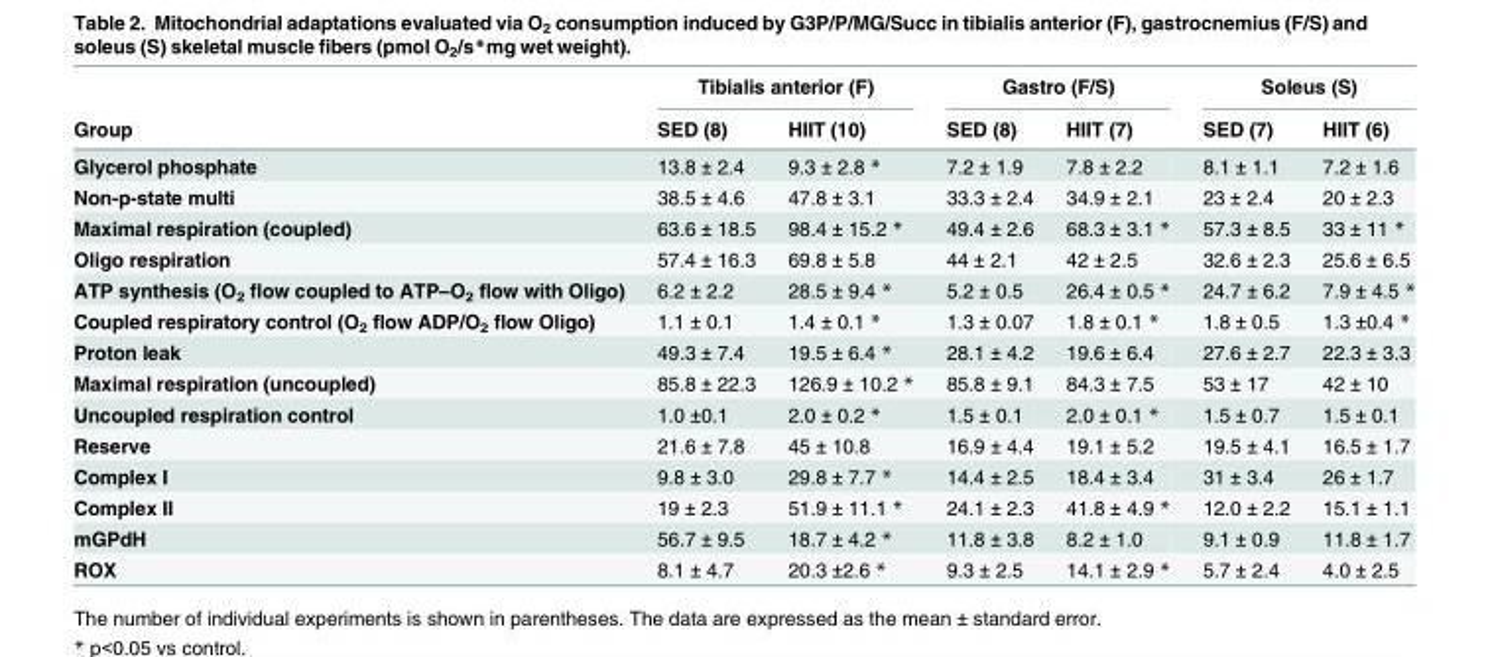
<table><thead><tr><td rowspan="2">Group</td><td colspan="2">Tibialis anterior (F)</td><td colspan="2">Gastro (F/S)</td><td colspan="2">Soleus (S)</td></tr><tr><td>SED (8)</td><td>HIIT (10)</td><td>SED (8)</td><td>HIIT (7)</td><td>SED (7)</td><td>HIIT (6)</td></tr></thead><tbody><tr><td>Glycerol phosphate</td><td>13.8 ± 2.4</td><td>9.3 ± 2.8 *</td><td>7.2 ± 1.9</td><td>7.8 ± 2.2</td><td>8.1 ± 1.1</td><td>7.2 ± 1.6</td></tr><tr><td>Non-p-state multi</td><td>38.5 ± 4.6</td><td>47.8 ± 3.1</td><td>33.3 ± 2.4</td><td>34.9 ± 2.1</td><td>23 ± 2.4</td><td>20 ± 2.3</td></tr><tr><td>Maximal respiration (coupled)</td><td>63.6 ± 18.5</td><td>98.4 ± 15.2 *</td><td>49.4 ± 2.6</td><td>68.3 ± 3.1 *</td><td>57.3 ± 8.5</td><td>33 ± 11 *</td></tr><tr><td>Oligo respiration</td><td>57.4 ± 16.3</td><td>69.8 ± 5.8</td><td>44 ± 2.1</td><td>42 ± 2.5</td><td>32.6 ± 2.3</td><td>25.6 ± 6.5</td></tr><tr><td>ATP synthesis (O<sub>2</sub> flow coupled to ATP–O<sub>2</sub> flow with Oligo)</td><td>6.2 ± 2.2</td><td>28.5 ± 9.4 *</td><td>5.2 ± 0.5</td><td>26.4 ± 0.5 *</td><td>24.7 ± 6.2</td><td>7.9 ± 4.5 *</td></tr><tr><td>Coupled respiratory control (O<sub>2</sub> flow ADP/O<sub>2</sub> flow Oligo)</td><td>1.1 ± 0.1</td><td>1.4 ± 0.1 *</td><td>1.3 ± 0.07</td><td>1.8 ± 0.1 *</td><td>1.8 ± 0.5</td><td>1.3 ±0.4 *</td></tr><tr><td>Proton leak</td><td>49.3 ± 7.4</td><td>19.5 ± 6.4 *</td><td>28.1 ± 4.2</td><td>19.6 ± 6.4</td><td>27.6 ± 2.7</td><td>22.3 ± 3.3</td></tr><tr><td>Maximal respiration (uncoupled)</td><td>85.8 ± 22.3</td><td>126.9 ± 10.2 *</td><td>85.8 ± 9.1</td><td>84.3 ± 7.5</td><td>53 ± 17</td><td>42 ± 10</td></tr><tr><td>Uncoupled respiration control</td><td>1.0 ±0.1</td><td>2.0 ± 0.2 *</td><td>1.5 ± 0.1</td><td>2.0 ± 0.1 *</td><td>1.5 ± 0.7</td><td>1.5 ± 0.1</td></tr><tr><td>Reserve</td><td>21.6 ± 7.8</td><td>45 ± 10.8</td><td>16.9 ± 4.4</td><td>19.1 ± 5.2</td><td>19.5 ± 4.1</td><td>16.5 ± 1.7</td></tr><tr><td>Complex I</td><td>9.8 ± 3.0</td><td>29.8 ± 7.7 *</td><td>14.4 ± 2.5</td><td>18.4 ± 3.4</td><td>31 ± 3.4</td><td>26 ± 1.7</td></tr><tr><td>Complex II</td><td>19 ± 2.3</td><td>51.9 ± 11.1 *</td><td>24.1 ± 2.3</td><td>41.8 ± 4.9 *</td><td>12.0 ± 2.2</td><td>15.1 ± 1.1</td></tr><tr><td>mGPdH</td><td>56.7 ± 9.5</td><td>18.7 ± 4.2 *</td><td>11.8 ± 3.8</td><td>8.2 ± 1.0</td><td>9.1 ± 0.9</td><td>11.8 ± 1.7</td></tr><tr><td>ROX</td><td>8.1 ± 4.7</td><td>20.3 ±2.6 *</td><td>9.3 ± 2.5</td><td>14.1 ± 2.9 *</td><td>5.7 ± 2.4</td><td>4.0 ± 2.5</td></tr></tbody></table>